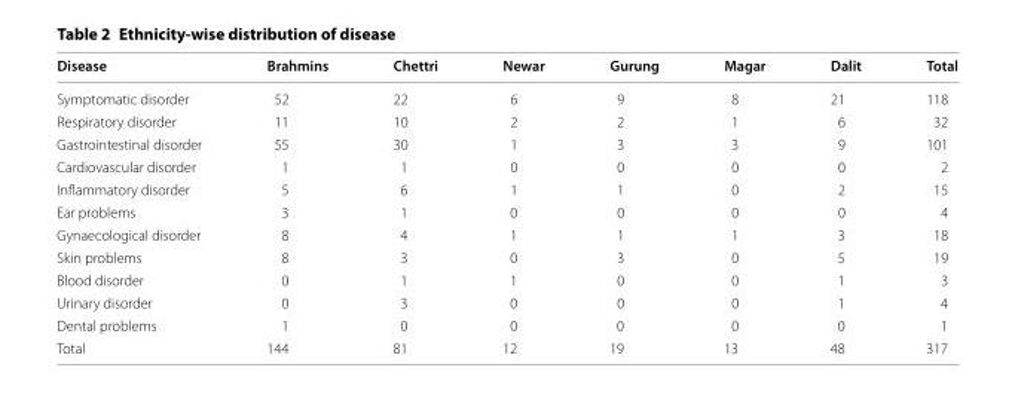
<table><thead><tr><td>Disease</td><td>Brahmins</td><td>Chettri</td><td>Newar</td><td>Gurung</td><td>Magar</td><td>Dalit</td><td>Total</td></tr></thead><tbody><tr><td>Symptomatic disorder</td><td>52</td><td>22</td><td>6</td><td>9</td><td>8</td><td>21</td><td>118</td></tr><tr><td>Respiratory disorder</td><td>11</td><td>10</td><td>2</td><td>2</td><td>1</td><td>6</td><td>32</td></tr><tr><td>Gastrointestinal disorder</td><td>55</td><td>30</td><td>1</td><td>3</td><td>3</td><td>9</td><td>101</td></tr><tr><td>Cardiovascular disorder</td><td>1</td><td>1</td><td>0</td><td>0</td><td>0</td><td>0</td><td>2</td></tr><tr><td>Inflammatory disorder</td><td>5</td><td>6</td><td>1</td><td>1</td><td>0</td><td>2</td><td>15</td></tr><tr><td>Ear problems</td><td>3</td><td>1</td><td>0</td><td>0</td><td>0</td><td>0</td><td>4</td></tr><tr><td>Gynaecological disorder</td><td>8</td><td>4</td><td>1</td><td>1</td><td>1</td><td>3</td><td>18</td></tr><tr><td>Skin problems</td><td>8</td><td>3</td><td>0</td><td>3</td><td>0</td><td>5</td><td>19</td></tr><tr><td>Blood disorder</td><td>0</td><td>1</td><td>1</td><td>0</td><td>0</td><td>1</td><td>3</td></tr><tr><td>Urinary disorder</td><td>0</td><td>3</td><td>0</td><td>0</td><td>0</td><td>1</td><td>4</td></tr><tr><td>Dental problems</td><td>1</td><td>0</td><td>0</td><td>0</td><td>0</td><td>0</td><td>1</td></tr><tr><td>Total</td><td>144</td><td>81</td><td>12</td><td>19</td><td>13</td><td>48</td><td>317</td></tr></tbody></table>